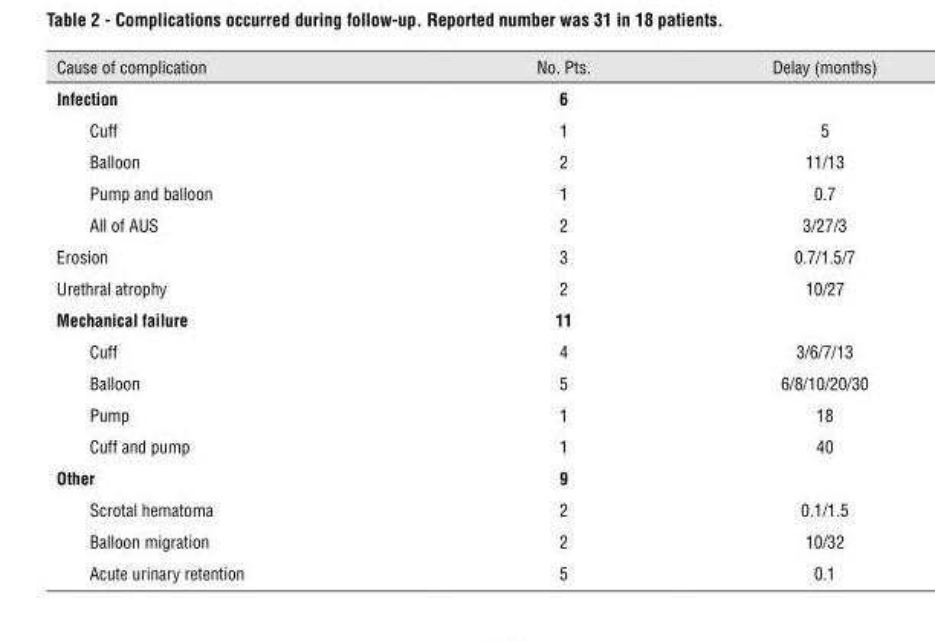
<table><thead><tr><td>Cause of complication</td><td>No. Pts.</td><td>Delay (months)</td></tr></thead><tbody><tr><td>Infection</td><td>6</td><td></td></tr><tr><td>Cuff</td><td>1</td><td>5</td></tr><tr><td>Balloon</td><td>2</td><td>11/13</td></tr><tr><td>Pump and balloon</td><td>1</td><td>0.7</td></tr><tr><td>All of AUS</td><td>2</td><td>3/27/3</td></tr><tr><td>Erosion</td><td>3</td><td>0.7/1.5/7</td></tr><tr><td>Urethral atrophy</td><td>2</td><td>10/27</td></tr><tr><td>Mechanical failure</td><td>11</td><td></td></tr><tr><td>Cuff</td><td>4</td><td>3/6/7/13</td></tr><tr><td>Balloon</td><td>5</td><td>6/8/10/20/30</td></tr><tr><td>Pump</td><td>1</td><td>18</td></tr><tr><td>Cuff and pump</td><td>1</td><td>40</td></tr><tr><td>Other</td><td>9</td><td></td></tr><tr><td>Scrotal hematoma</td><td>2</td><td>0.1/1.5</td></tr><tr><td>Balloon migration</td><td>2</td><td>10/32</td></tr><tr><td>Acute urinary retention</td><td>5</td><td>0.1</td></tr></tbody></table>